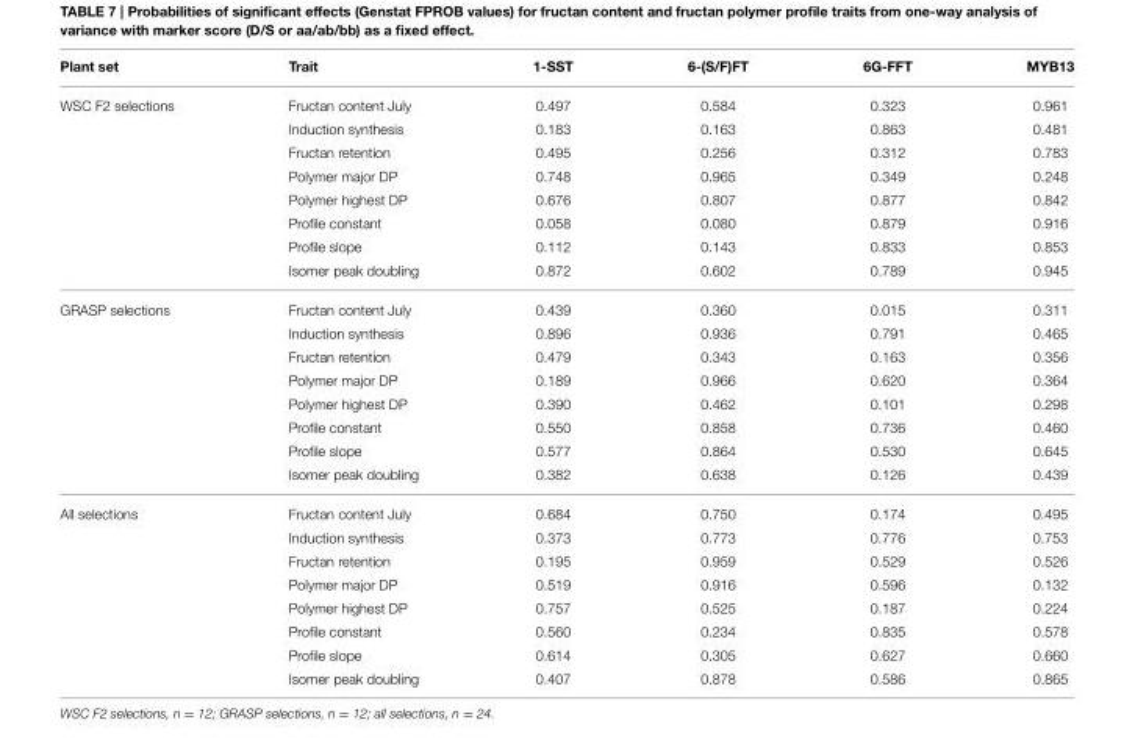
<table><thead><tr><td>Plant set</td><td>Trait</td><td>1-SST</td><td>6-(S/F)FT</td><td>6G-FFT</td><td>MYB13</td></tr></thead><tbody><tr><td rowspan="8">WSC F2 selections</td><td>Fructan content July</td><td>0.497</td><td>0.584</td><td>0.323</td><td>0.961</td></tr><tr><td>Induction synthesis</td><td>0.183</td><td>0.163</td><td>0.863</td><td>0.481</td></tr><tr><td>Fructan retention</td><td>0.495</td><td>0.256</td><td>0.312</td><td>0.783</td></tr><tr><td>Polymer major DP</td><td>0.748</td><td>0.965</td><td>0.349</td><td>0.248</td></tr><tr><td>Polymer highest DP</td><td>0.676</td><td>0.807</td><td>0.877</td><td>0.842</td></tr><tr><td>Profile constant</td><td>0.058</td><td>0.080</td><td>0.879</td><td>0.916</td></tr><tr><td>Profile slope</td><td>0.112</td><td>0.143</td><td>0.833</td><td>0.853</td></tr><tr><td>Isomer peak doubling</td><td>0.872</td><td>0.602</td><td>0.789</td><td>0.945</td></tr><tr><td rowspan="8">GRASP selections</td><td>Fructan content July</td><td>0.439</td><td>0.360</td><td>0.015</td><td>0.311</td></tr><tr><td>Induction synthesis</td><td>0.896</td><td>0.936</td><td>0.791</td><td>0.465</td></tr><tr><td>Fructan retention</td><td>0.479</td><td>0.343</td><td>0.163</td><td>0.356</td></tr><tr><td>Polymer major DP</td><td>0.189</td><td>0.966</td><td>0.620</td><td>0.364</td></tr><tr><td>Polymer highest DP</td><td>0.390</td><td>0.462</td><td>0.101</td><td>0.298</td></tr><tr><td>Profile constant</td><td>0.550</td><td>0.858</td><td>0.736</td><td>0.460</td></tr><tr><td>Profile slope</td><td>0.577</td><td>0.864</td><td>0.530</td><td>0.645</td></tr><tr><td>Isomer peak doubling</td><td>0.382</td><td>0.638</td><td>0.126</td><td>0.439</td></tr><tr><td rowspan="8">All selections</td><td>Fructan content July</td><td>0.684</td><td>0.750</td><td>0.174</td><td>0.495</td></tr><tr><td>Induction synthesis</td><td>0.373</td><td>0.773</td><td>0.776</td><td>0.753</td></tr><tr><td>Fructan retention</td><td>0.195</td><td>0.959</td><td>0.529</td><td>0.526</td></tr><tr><td>Polymer major DP</td><td>0.519</td><td>0.916</td><td>0.596</td><td>0.132</td></tr><tr><td>Polymer highest DP</td><td>0.757</td><td>0.525</td><td>0.187</td><td>0.224</td></tr><tr><td>Profile constant</td><td>0.560</td><td>0.234</td><td>0.835</td><td>0.578</td></tr><tr><td>Profile slope</td><td>0.614</td><td>0.305</td><td>0.627</td><td>0.660</td></tr><tr><td>Isomer peak doubling</td><td>0.407</td><td>0.878</td><td>0.586</td><td>0.865</td></tr></tbody></table>